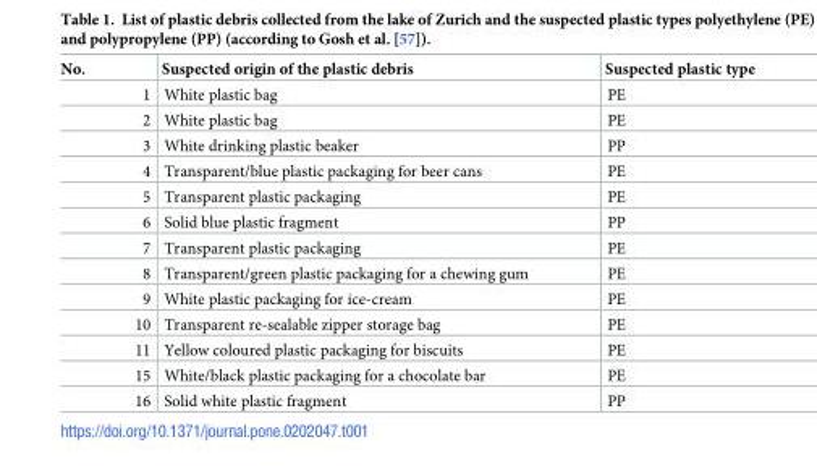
<table><thead><tr><td>No.</td><td>Suspected origin of the plastic debris</td><td>Suspected plastic type</td></tr></thead><tbody><tr><td>1</td><td>White plastic bag</td><td>PE</td></tr><tr><td>2</td><td>White plastic bag</td><td>PE</td></tr><tr><td>3</td><td>White drinking plastic beaker</td><td>PP</td></tr><tr><td>4</td><td>Transparent/blue plastic packaging for beer cans</td><td>PE</td></tr><tr><td>5</td><td>Transparent plastic packaging</td><td>PE</td></tr><tr><td>6</td><td>Solid blue plastic fragment</td><td>PP</td></tr><tr><td>7</td><td>Transparent plastic packaging</td><td>PE</td></tr><tr><td>8</td><td>Transparent/green plastic packaging for a chewing gum</td><td>PE</td></tr><tr><td>9</td><td>White plastic packaging for ice-cream</td><td>PE</td></tr><tr><td>10</td><td>Transparent re-sealable zipper storage bag</td><td>PE</td></tr><tr><td>11</td><td>Yellow coloured plastic packaging for biscuits</td><td>PE</td></tr><tr><td>15</td><td>White/black plastic packaging for a chocolate bar</td><td>PE</td></tr><tr><td>16</td><td>Solid white plastic fragment</td><td>PP</td></tr></tbody></table>